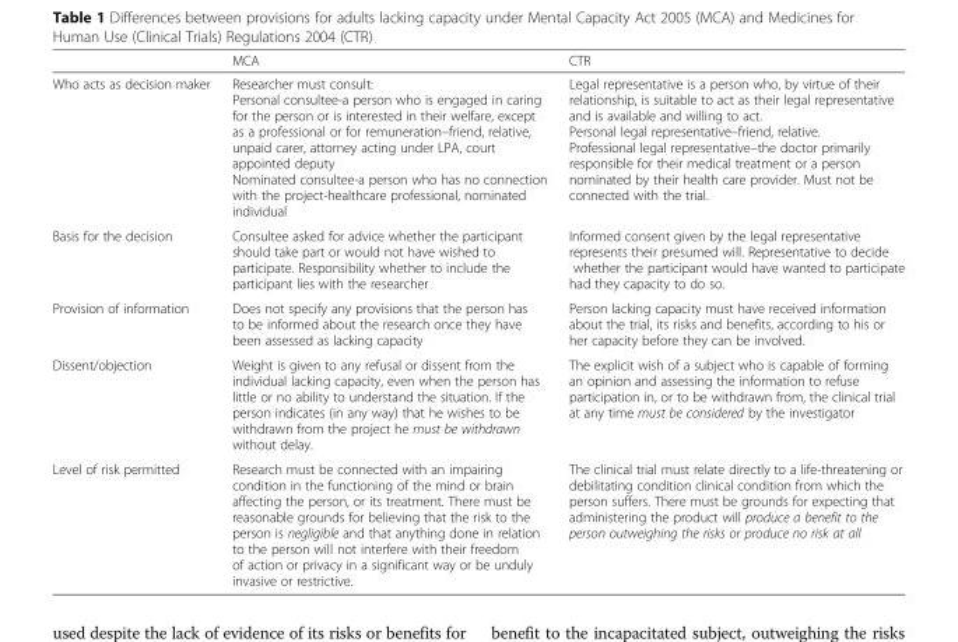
<table><thead><tr><td></td><td>MCA</td><td>CTR</td></tr></thead><tbody><tr><td>Who acts as decision maker</td><td>Researcher must consult: Personal consultee-a person who is engaged in caring for the person or is interested in their welfare, except as a professional or for remuneration–friend, relative, unpaid carer, attorney acting under LPA, court appointed deputy Nominated consultee-a person who has no connection with the project-healthcare professional, nominated individual</td><td>Legal representative is a person who, by virtue of their relationship, is suitable to act as their legal representative and is available and willing to act. Personal legal representative–friend, relative. Professional legal representative–the doctor primarily responsible for their medical treatment or a person nominated by their health care provider. Must not be connected with the trial.</td></tr><tr><td>Basis for the decision</td><td>Consultee asked for advice whether the participant should take part or would not have wished to participate. Responsibility whether to include the participant lies with the researcher</td><td>Informed consent given by the legal representative represents their presumed will. Representative to decide whether the participant would have wanted to participate had they capacity to do so.</td></tr><tr><td>Provision of information</td><td>Does not specify any provisions that the person has to be informed about the research once they have been assessed as lacking capacity</td><td>Person lacking capacity must have received information about the trial, its risks and benefits, according to his or her capacity before they can be involved.</td></tr><tr><td>Dissent/objection</td><td>Weight is given to any refusal or dissent from the individual lacking capacity, even when the person has little or no ability to understand the situation. If the person indicates (in any way) that he wishes to be withdrawn from the project he must be withdrawn without delay.</td><td>The explicit wish of a subject who is capable of forming an opinion and assessing the information to refuse participation in, or to be withdrawn from, the clinical trial at any time must be considered by the investigator</td></tr><tr><td>Level of risk permitted</td><td>Research must be connected with an impairing condition in the functioning of the mind or brain affecting the person, or its treatment. There must be reasonable grounds for believing that the risk to the person is negligible and that anything done in relation to the person will not interfere with their freedom of action or privacy in a significant way or be unduly invasive or restrictive.</td><td>The clinical trial must relate directly to a life-threatening or debilitating condition clinical condition from which the person suffers. There must be grounds for expecting that administering the product will produce a benefit to the person outweighing the risks or produce no risk at all</td></tr></tbody></table>